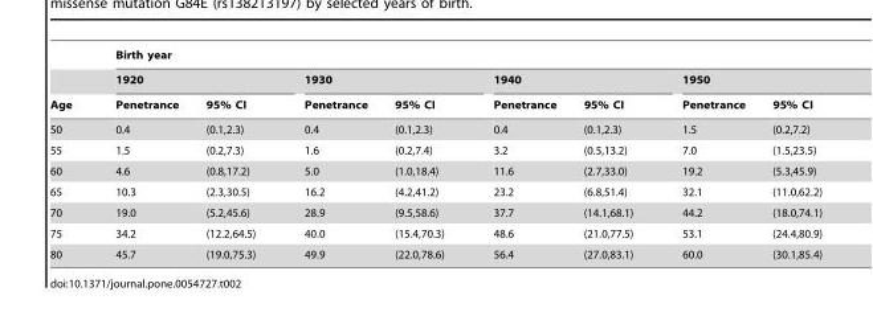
<table><thead><tr><td rowspan="3">Age</td><td colspan="8">Birth year</td></tr><tr><td colspan="2">1920</td><td colspan="2">1930</td><td colspan="2">1940</td><td colspan="2">1950</td></tr><tr><td>Penetrance</td><td>95% CI</td><td>Penetrance</td><td>95% CI</td><td>Penetrance</td><td>95% CI</td><td>Penetrance</td><td>95% CI</td></tr></thead><tbody><tr><td>50</td><td>0.4</td><td>(0.1,2.3)</td><td>0.4</td><td>(0.1,2.3)</td><td>0.4</td><td>(0.1,2.3)</td><td>1.5</td><td>(0.2,7.2)</td></tr><tr><td>55</td><td>1.5</td><td>(0.2,7.3)</td><td>1.6</td><td>(0.2,7.4)</td><td>3.2</td><td>(0.5,13.2)</td><td>7.0</td><td>(1.5,23.5)</td></tr><tr><td>60</td><td>4.6</td><td>(0.8,17.2)</td><td>5.0</td><td>(1.0,18.4)</td><td>11.6</td><td>(2.7,33.0)</td><td>19.2</td><td>(5.3,45.9)</td></tr><tr><td>65</td><td>10.3</td><td>(2.3,30.5)</td><td>16.2</td><td>(4.2,41.2)</td><td>23.2</td><td>(6.8,51.4)</td><td>32.1</td><td>(11.0,62.2)</td></tr><tr><td>70</td><td>19.0</td><td>(5.2,45.6)</td><td>28.9</td><td>(9.5,58.6)</td><td>37.7</td><td>(14.1,68.1)</td><td>44.2</td><td>(18.0,74.1)</td></tr><tr><td>75</td><td>34.2</td><td>(12.2,64.5)</td><td>40.0</td><td>(15.4,70.3)</td><td>48.6</td><td>(21.0,77.5)</td><td>53.1</td><td>(24.4,80.9)</td></tr><tr><td>80</td><td>45.7</td><td>(19.0,75.3)</td><td>49.9</td><td>(22.0,78.6)</td><td>56.4</td><td>(27.0,83.1)</td><td>60.0</td><td>(30.1,85.4)</td></tr></tbody></table>